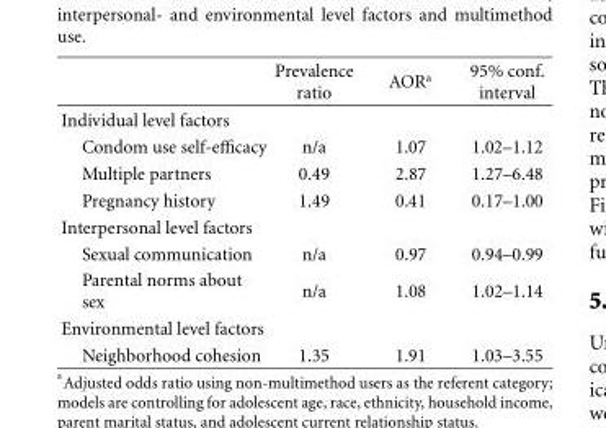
<table><thead><tr><td></td><td>Prevalence ratio</td><td>AOR<sup>a</sup></td><td>95% conf. interval</td></tr></thead><tbody><tr><td colspan="4">Individual level factors</td></tr><tr><td>Condom use self-efficacy</td><td>n/a</td><td>1.07</td><td>1.02–1.12</td></tr><tr><td>Multiple partners</td><td>0.49</td><td>2.87</td><td>1.27–6.48</td></tr><tr><td>Pregnancy history</td><td>1.49</td><td>0.41</td><td>0.17–1.00</td></tr><tr><td colspan="4">Interpersonal level factors</td></tr><tr><td>Sexual communication</td><td>n/a</td><td>0.97</td><td>0.94–0.99</td></tr><tr><td>Parental norms about sex</td><td>n/a</td><td>1.08</td><td>1.02–1.14</td></tr><tr><td colspan="4">Environmental level factors</td></tr><tr><td>Neighborhood cohesion</td><td>1.35</td><td>1.91</td><td>1.03–3.55</td></tr></tbody></table>